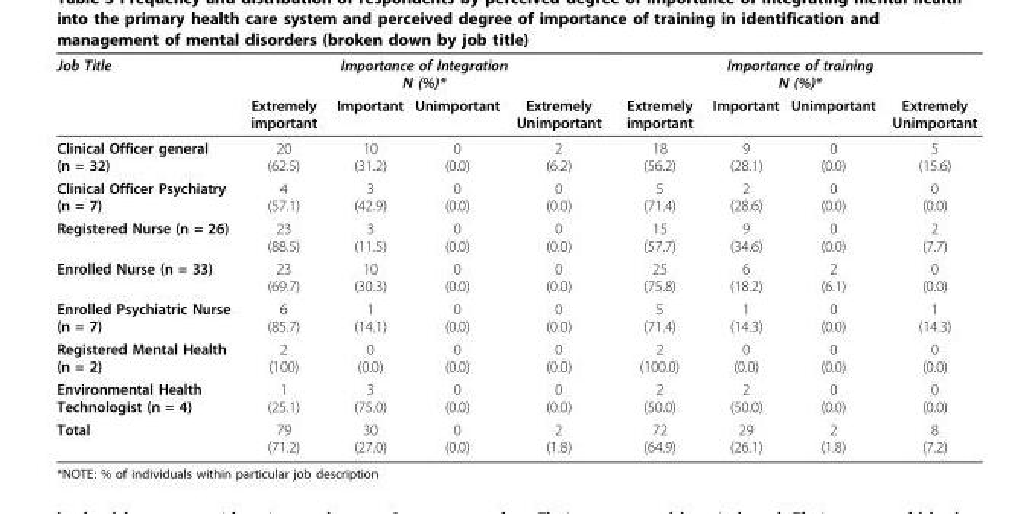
<table><thead><tr><td rowspan="2">Job Title</td><td colspan="4">Importance of Integration N (%)*</td><td colspan="4">Importance of training N (%)*</td></tr><tr><td>Extremely important</td><td>Important</td><td>Unimportant</td><td>Extremely Unimportant</td><td>Extremely important</td><td>Important</td><td>Unimportant</td><td>Extremely Unimportant</td></tr></thead><tbody><tr><td>Clinical Officer general (n = 32)</td><td>20 (62.5)</td><td>10 (31.2)</td><td>0 (0.0)</td><td>2 (6.2)</td><td>18 (56.2)</td><td>9 (28.1)</td><td>0 (0.0)</td><td>5 (15.6)</td></tr><tr><td>Clinical Officer Psychiatry (n = 7)</td><td>4 (57.1)</td><td>3 (42.9)</td><td>0 (0.0)</td><td>0 (0.0)</td><td>5 (71.4)</td><td>2 (28.6)</td><td>0 (0.0)</td><td>0 (0.0)</td></tr><tr><td>Registered Nurse (n = 26)</td><td>23 (88.5)</td><td>3 (11.5)</td><td>0 (0.0)</td><td>0 (0.0)</td><td>15 (57.7)</td><td>9 (34.6)</td><td>0 (0.0)</td><td>2 (7.7)</td></tr><tr><td>Enrolled Nurse (n = 33)</td><td>23 (69.7)</td><td>10 (30.3)</td><td>0 (0.0)</td><td>0 (0.0)</td><td>25 (75.8)</td><td>6 (18.2)</td><td>2 (6.1)</td><td>0 (0.0)</td></tr><tr><td>Enrolled Psychiatric Nurse (n = 7)</td><td>6 (85.7)</td><td>1 (14.1)</td><td>0 (0.0)</td><td>0 (0.0)</td><td>5 (71.4)</td><td>1 (14.3)</td><td>0 (0.0)</td><td>1 (14.3)</td></tr><tr><td>Registered Mental Health (n = 2)</td><td>2 (100)</td><td>0 (0.0)</td><td>0 (0.0)</td><td>0 (0.0)</td><td>2 (100.0)</td><td>0 (0.0)</td><td>0 (0.0)</td><td>0 (0.0)</td></tr><tr><td>Environmental Health Technologist (n = 4)</td><td>1 (25.1)</td><td>3 (75.0)</td><td>0 (0.0)</td><td>0 (0.0)</td><td>2 (50.0)</td><td>2 (50.0)</td><td>0 (0.0)</td><td>0 (0.0)</td></tr><tr><td>Total</td><td>79 (71.2)</td><td>30 (27.0)</td><td>0 (0.0)</td><td>2 (1.8)</td><td>72 (64.9)</td><td>29 (26.1)</td><td>2 (1.8)</td><td>8 (7.2)</td></tr></tbody></table>